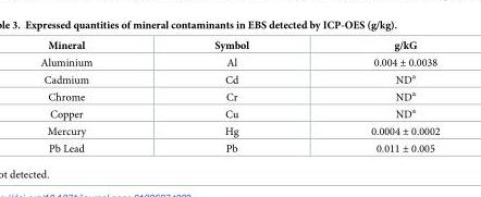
<table><thead><tr><td>Mineral</td><td>Symbol</td><td>g/kG</td></tr></thead><tbody><tr><td>Aluminium</td><td>Al</td><td>0.004 ± 0.0038</td></tr><tr><td>Cadmium</td><td>Cd</td><td>ND<sup>a</sup></td></tr><tr><td>Chrome</td><td>Cr</td><td>ND<sup>a</sup></td></tr><tr><td>Copper</td><td>Cu</td><td>ND<sup>a</sup></td></tr><tr><td>Mercury</td><td>Hg</td><td>0.0004 ± 0.0002</td></tr><tr><td>Pb Lead</td><td>Pb</td><td>0.011 ± 0.005</td></tr></tbody></table>